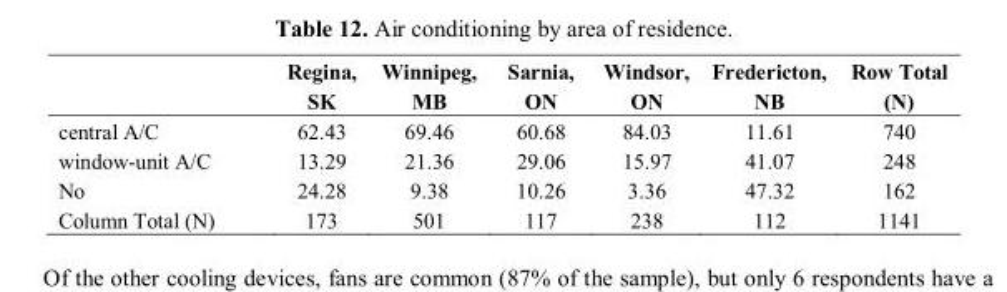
<table><thead><tr><td></td><td>Regina, SK</td><td>Winnipeg, MB</td><td>Sarnia, ON</td><td>Windsor, ON</td><td>Fredericton, NB</td><td>Row Total (N)</td></tr></thead><tbody><tr><td>central A/C</td><td>62.43</td><td>69.46</td><td>60.68</td><td>84.03</td><td>11.61</td><td>740</td></tr><tr><td>window-unit A/C</td><td>13.29</td><td>21.36</td><td>29.06</td><td>15.97</td><td>41.07</td><td>248</td></tr><tr><td>No</td><td>24.28</td><td>9.38</td><td>10.26</td><td>3.36</td><td>47.32</td><td>162</td></tr><tr><td>Column Total (N)</td><td>173</td><td>501</td><td>117</td><td>238</td><td>112</td><td>1141</td></tr></tbody></table>